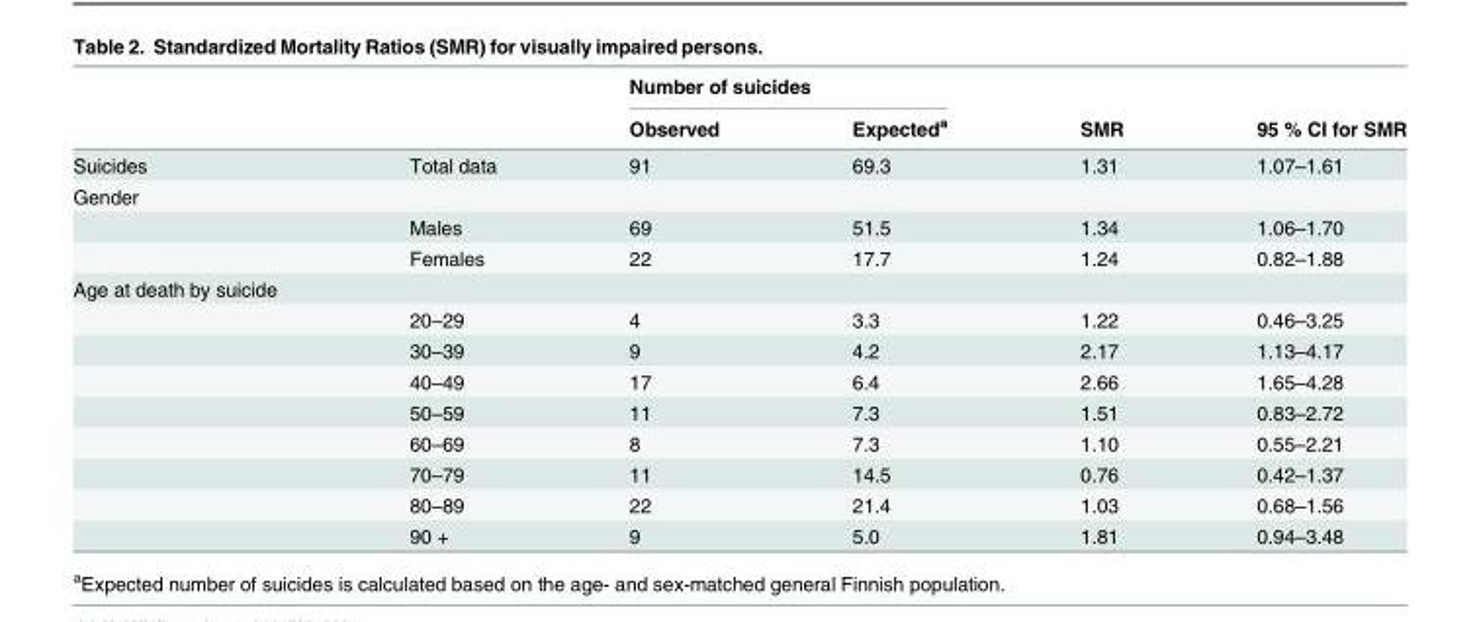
<table><thead><tr><td rowspan="2"></td><td rowspan="2"></td><td colspan="2">Number of suicides</td><td rowspan="2">SMR</td><td rowspan="2">95 % CI for SMR</td></tr><tr><td>Observed</td><td>Expected<sup>a</sup></td></tr></thead><tbody><tr><td>Suicides</td><td>Total data</td><td>91</td><td>69.3</td><td>1.31</td><td>1.07–1.61</td></tr><tr><td colspan="6">Gender</td></tr><tr><td></td><td>Males</td><td>69</td><td>51.5</td><td>1.34</td><td>1.06–1.70</td></tr><tr><td></td><td>Females</td><td>22</td><td>17.7</td><td>1.24</td><td>0.82–1.88</td></tr><tr><td colspan="6">Age at death by suicide</td></tr><tr><td></td><td>20–29</td><td>4</td><td>3.3</td><td>1.22</td><td>0.46–3.25</td></tr><tr><td></td><td>30–39</td><td>9</td><td>4.2</td><td>2.17</td><td>1.13–4.17</td></tr><tr><td></td><td>40–49</td><td>17</td><td>6.4</td><td>2.66</td><td>1.65–4.28</td></tr><tr><td></td><td>50–59</td><td>11</td><td>7.3</td><td>1.51</td><td>0.83–2.72</td></tr><tr><td></td><td>60–69</td><td>8</td><td>7.3</td><td>1.10</td><td>0.55–2.21</td></tr><tr><td></td><td>70–79</td><td>11</td><td>14.5</td><td>0.76</td><td>0.42–1.37</td></tr><tr><td></td><td>80–89</td><td>22</td><td>21.4</td><td>1.03</td><td>0.68–1.56</td></tr><tr><td></td><td>90 +</td><td>9</td><td>5.0</td><td>1.81</td><td>0.94–3.48</td></tr></tbody></table>